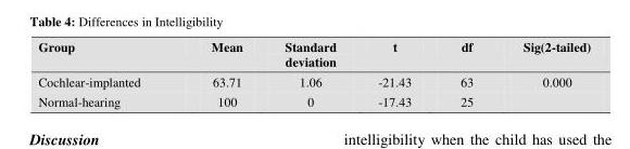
<table><thead><tr><td>Group</td><td>Mean</td><td>Standard deviation</td><td>t</td><td>df</td><td>Sig(2-tailed)</td></tr></thead><tbody><tr><td>Cochlear-implanted</td><td>63.71</td><td>1.06</td><td>-21.43</td><td>63</td><td>0.000</td></tr><tr><td>Normal-hearing</td><td>100</td><td>0</td><td>-17.43</td><td>25</td><td></td></tr></tbody></table>